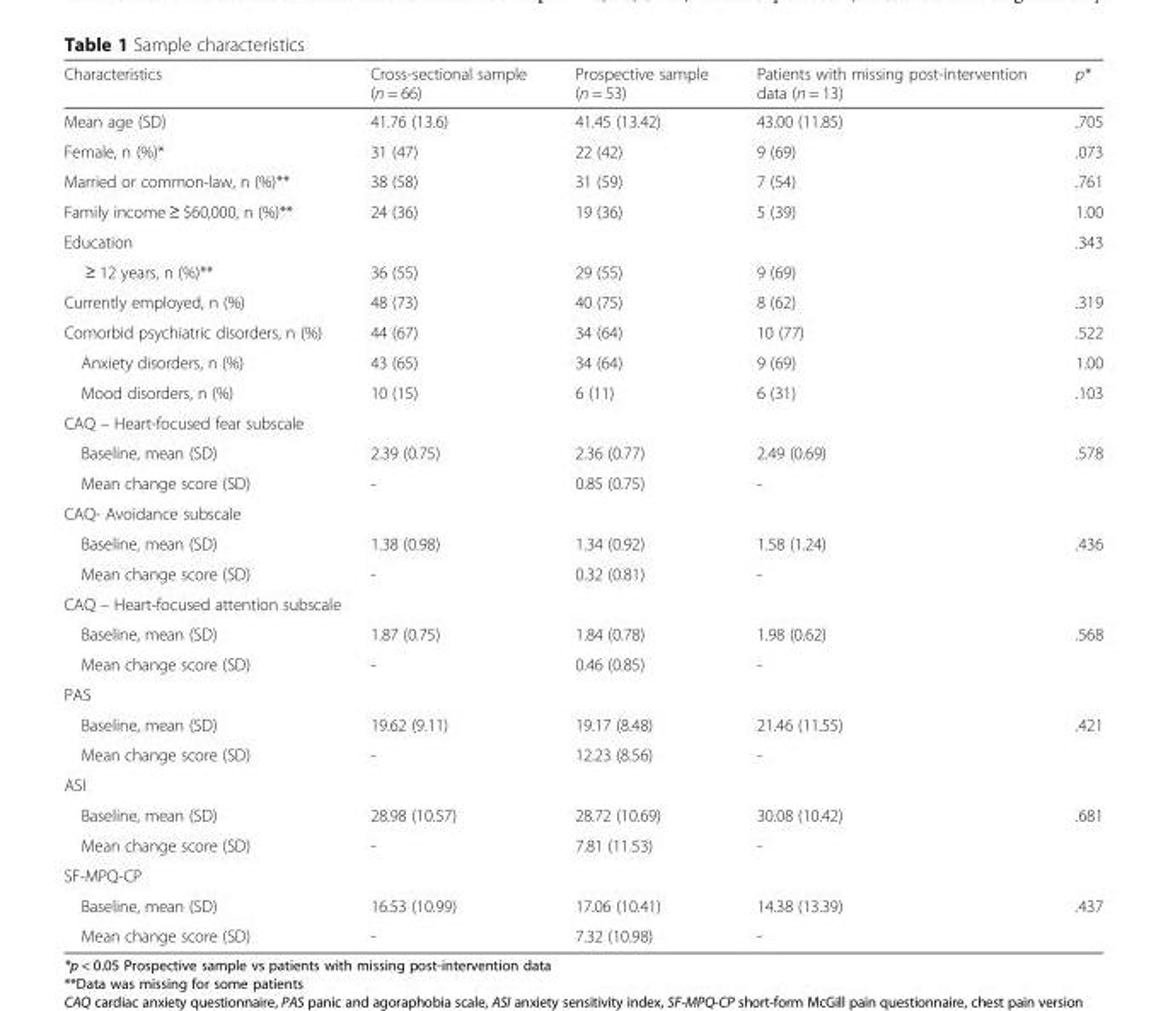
<table><thead><tr><td>Characteristics</td><td>Cross-sectional sample (n = 66)</td><td>Prospective sample (n = 53)</td><td>Patients with missing post-intervention data (n = 13)</td><td>p*</td></tr></thead><tbody><tr><td>Mean age (SD)</td><td>41.76 (13.6)</td><td>41.45 (13.42)</td><td>43.00 (11.85)</td><td>.705</td></tr><tr><td>Female, n (%)*</td><td>31 (47)</td><td>22 (42)</td><td>9 (69)</td><td>.073</td></tr><tr><td>Married or common-law, n (%)**</td><td>38 (58)</td><td>31 (59)</td><td>7 (54)</td><td>.761</td></tr><tr><td>Family income ≥ $60,000, n (%)**</td><td>24 (36)</td><td>19 (36)</td><td>5 (39)</td><td>1.00</td></tr><tr><td colspan="4">Education</td><td>.343</td></tr><tr><td>≥ 12 years, n (%)**</td><td>36 (55)</td><td>29 (55)</td><td>9 (69)</td><td></td></tr><tr><td>Currently employed, n (%)</td><td>48 (73)</td><td>40 (75)</td><td>8 (62)</td><td>.319</td></tr><tr><td>Comorbid psychiatric disorders, n (%)</td><td>44 (67)</td><td>34 (64)</td><td>10 (77)</td><td>.522</td></tr><tr><td>Anxiety disorders, n (%)</td><td>43 (65)</td><td>34 (64)</td><td>9 (69)</td><td>1.00</td></tr><tr><td>Mood disorders, n (%)</td><td>10 (15)</td><td>6 (11)</td><td>6 (31)</td><td>.103</td></tr><tr><td colspan="5">CAQ – Heart-focused fear subscale</td></tr><tr><td>Baseline, mean (SD)</td><td>2.39 (0.75)</td><td>2.36 (0.77)</td><td>2.49 (0.69)</td><td rowspan="2">.578</td></tr><tr><td>Mean change score (SD)</td><td>-</td><td>0.85 (0.75)</td><td>-</td></tr><tr><td colspan="5">CAQ- Avoidance subscale</td></tr><tr><td>Baseline, mean (SD)</td><td>1.38 (0.98)</td><td>1.34 (0.92)</td><td>1.58 (1.24)</td><td rowspan="2">.436</td></tr><tr><td>Mean change score (SD)</td><td>-</td><td>0.32 (0.81)</td><td>-</td></tr><tr><td colspan="5">CAQ – Heart-focused attention subscale</td></tr><tr><td>Baseline, mean (SD)</td><td>1.87 (0.75)</td><td>1.84 (0.78)</td><td>1.98 (0.62)</td><td rowspan="2">.568</td></tr><tr><td>Mean change score (SD)</td><td>-</td><td>0.46 (0.85)</td><td>-</td></tr><tr><td colspan="5">PAS</td></tr><tr><td>Baseline, mean (SD)</td><td>19.62 (9.11)</td><td>19.17 (8.48)</td><td>21.46 (11.55)</td><td rowspan="2">.421</td></tr><tr><td>Mean change score (SD)</td><td>-</td><td>12.23 (8.56)</td><td>-</td></tr><tr><td colspan="5">ASI</td></tr><tr><td>Baseline, mean (SD)</td><td>28.98 (10.57)</td><td>28.72 (10.69)</td><td>30.08 (10.42)</td><td rowspan="2">.681</td></tr><tr><td>Mean change score (SD)</td><td>-</td><td>7.81 (11.53)</td><td>-</td></tr><tr><td colspan="5">SF-MPQ-CP</td></tr><tr><td>Baseline, mean (SD)</td><td>16.53 (10.99)</td><td>17.06 (10.41)</td><td>14.38 (13.39)</td><td rowspan="2">.437</td></tr><tr><td>Mean change score (SD)</td><td>-</td><td>7.32 (10.98)</td><td>-</td></tr></tbody></table>